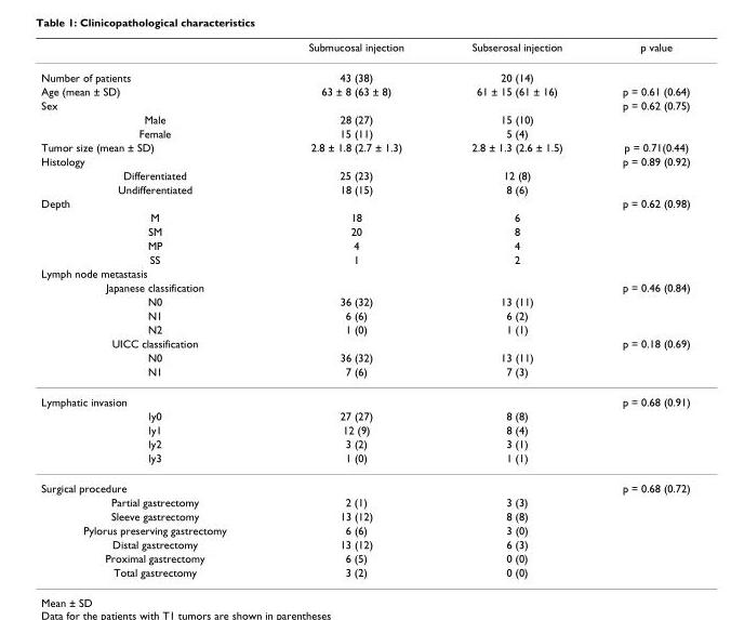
<table><thead><tr><td></td><td>Submucosal injection</td><td>Subserosal injection</td><td>p value</td></tr></thead><tbody><tr><td>Number of patients</td><td>43 (38)</td><td>20 (14)</td><td></td></tr><tr><td>Age (mean ± SD)</td><td>63 ± 8 (63 ± 8)</td><td>61 ± 15 (61 ± 16)</td><td>p = 0.61 (0.64)</td></tr><tr><td>Sex</td><td></td><td></td><td>p = 0.62 (0.75)</td></tr><tr><td>Male</td><td>28 (27)</td><td>15 (10)</td><td></td></tr><tr><td>Female</td><td>15 (11)</td><td>5 (4)</td><td></td></tr><tr><td>Tumor size (mean ± SD)</td><td>2.8 ± 1.8 (2.7 ± 1.3)</td><td>2.8 ± 1.3 (2.6 ± 1.5)</td><td>p = 0.71(0.44)</td></tr><tr><td>Histology</td><td></td><td></td><td>p = 0.89 (0.92)</td></tr><tr><td>Differentiated</td><td>25 (23)</td><td>12 (8)</td><td></td></tr><tr><td>Undifferentiated</td><td>18 (15)</td><td>8 (6)</td><td></td></tr><tr><td>Depth</td><td></td><td></td><td>p = 0.62 (0.98)</td></tr><tr><td>M</td><td>18</td><td>6</td><td></td></tr><tr><td>SM</td><td>20</td><td>8</td><td></td></tr><tr><td>MP</td><td>4</td><td>4</td><td></td></tr><tr><td>SS</td><td>1</td><td>2</td><td></td></tr><tr><td colspan="4">Lymph node metastasis</td></tr><tr><td>Japanese classification</td><td></td><td></td><td>p = 0.46 (0.84)</td></tr><tr><td>N0</td><td>36 (32)</td><td>13 (11)</td><td></td></tr><tr><td>N1</td><td>6 (6)</td><td>6 (2)</td><td></td></tr><tr><td>N2</td><td>1 (0)</td><td>1 (1)</td><td></td></tr><tr><td>UICC classification</td><td></td><td></td><td>p = 0.18 (0.69)</td></tr><tr><td>N0</td><td>36 (32)</td><td>13 (11)</td><td></td></tr><tr><td>N1</td><td>7 (6)</td><td>7 (3)</td><td></td></tr><tr><td>Lymphatic invasion</td><td></td><td></td><td>p = 0.68 (0.91)</td></tr><tr><td>ly0</td><td>27 (27)</td><td>8 (8)</td><td></td></tr><tr><td>ly1</td><td>12 (9)</td><td>8 (4)</td><td></td></tr><tr><td>ly2</td><td>3 (2)</td><td>3 (1)</td><td></td></tr><tr><td>ly3</td><td>1 (0)</td><td>1 (1)</td><td></td></tr><tr><td>Surgical procedure</td><td></td><td></td><td>p = 0.68 (0.72)</td></tr><tr><td>Partial gastrectomy</td><td>2 (1)</td><td>3 (3)</td><td></td></tr><tr><td>Sleeve gastrectomy</td><td>13 (12)</td><td>8 (8)</td><td></td></tr><tr><td>Pylorus preserving gastrectomy</td><td>6 (6)</td><td>3 (0)</td><td></td></tr><tr><td>Distal gastrectomy</td><td>13 (12)</td><td>6 (3)</td><td></td></tr><tr><td>Proximal gastrectomy</td><td>6 (5)</td><td>0 (0)</td><td></td></tr><tr><td>Total gastrectomy</td><td>3 (2)</td><td>0 (0)</td><td></td></tr></tbody></table>